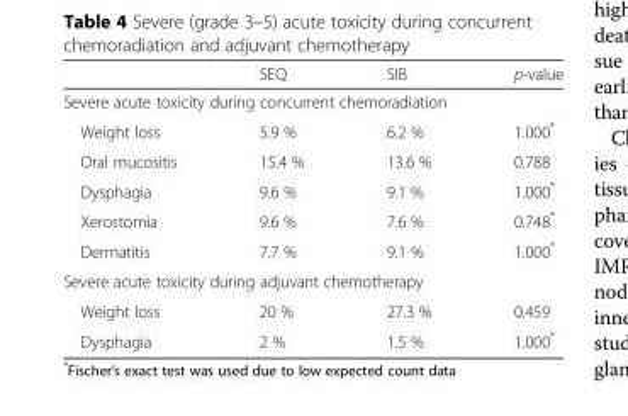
<table><thead><tr><td></td><td>SEQ</td><td>SIB</td><td>p-value</td></tr></thead><tbody><tr><td colspan="4">Severe acute toxicity during concurrent chemoradiation</td></tr><tr><td>Weight loss</td><td>5.9 %</td><td>6.2 %</td><td>1.000*</td></tr><tr><td>Oral mucositis</td><td>15.4 %</td><td>13.6 %</td><td>0.788</td></tr><tr><td>Dysphagia</td><td>9.6 %</td><td>9.1 %</td><td>1.000*</td></tr><tr><td>Xerostomia</td><td>9.6 %</td><td>7.6 %</td><td>0.748*</td></tr><tr><td>Dermatitis</td><td>7.7 %</td><td>9.1 %</td><td>1.000*</td></tr><tr><td colspan="4">Severe acute toxicity during adjuvant chemotherapy</td></tr><tr><td>Weight loss</td><td>20 %</td><td>27.3 %</td><td>0.459</td></tr><tr><td>Dysphagia</td><td>2 %</td><td>1.5 %</td><td>1.000*</td></tr></tbody></table>